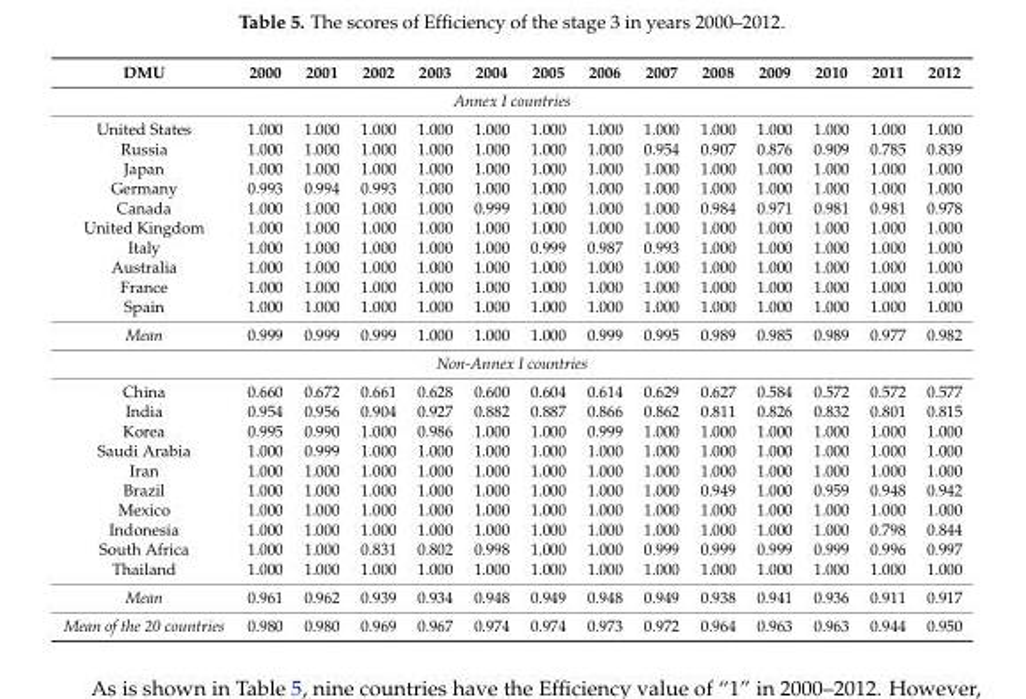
<table><thead><tr><td>DMU</td><td>2000</td><td>2001</td><td>2002</td><td>2003</td><td>2004</td><td>2005</td><td>2006</td><td>2007</td><td>2008</td><td>2009</td><td>2010</td><td>2011</td><td>2012</td></tr></thead><tbody><tr><td colspan="14">Annex I countries</td></tr><tr><td>United States</td><td>1.000</td><td>1.000</td><td>1.000</td><td>1.000</td><td>1.000</td><td>1.000</td><td>1.000</td><td>1.000</td><td>1.000</td><td>1.000</td><td>1.000</td><td>1.000</td><td>1.000</td></tr><tr><td>Russia</td><td>1.000</td><td>1.000</td><td>1.000</td><td>1.000</td><td>1.000</td><td>1.000</td><td>1.000</td><td>0.954</td><td>0.907</td><td>0.876</td><td>0.909</td><td>0.785</td><td>0.839</td></tr><tr><td>Japan</td><td>1.000</td><td>1.000</td><td>1.000</td><td>1.000</td><td>1.000</td><td>1.000</td><td>1.000</td><td>1.000</td><td>1.000</td><td>1.000</td><td>1.000</td><td>1.000</td><td>1.000</td></tr><tr><td>Germany</td><td>0.993</td><td>0.994</td><td>0.993</td><td>1.000</td><td>1.000</td><td>1.000</td><td>1.000</td><td>1.000</td><td>1.000</td><td>1.000</td><td>1.000</td><td>1.000</td><td>1.000</td></tr><tr><td>Canada</td><td>1.000</td><td>1.000</td><td>1.000</td><td>1.000</td><td>0.999</td><td>1.000</td><td>1.000</td><td>1.000</td><td>0.984</td><td>0.971</td><td>0.981</td><td>0.981</td><td>0.978</td></tr><tr><td>United Kingdom</td><td>1.000</td><td>1.000</td><td>1.000</td><td>1.000</td><td>1.000</td><td>1.000</td><td>1.000</td><td>1.000</td><td>1.000</td><td>1.000</td><td>1.000</td><td>1.000</td><td>1.000</td></tr><tr><td>Italy</td><td>1.000</td><td>1.000</td><td>1.000</td><td>1.000</td><td>1.000</td><td>0.999</td><td>0.987</td><td>0.993</td><td>1.000</td><td>1.000</td><td>1.000</td><td>1.000</td><td>1.000</td></tr><tr><td>Australia</td><td>1.000</td><td>1.000</td><td>1.000</td><td>1.000</td><td>1.000</td><td>1.000</td><td>1.000</td><td>1.000</td><td>1.000</td><td>1.000</td><td>1.000</td><td>1.000</td><td>1.000</td></tr><tr><td>France</td><td>1.000</td><td>1.000</td><td>1.000</td><td>1.000</td><td>1.000</td><td>1.000</td><td>1.000</td><td>1.000</td><td>1.000</td><td>1.000</td><td>1.000</td><td>1.000</td><td>1.000</td></tr><tr><td>Spain</td><td>1.000</td><td>1.000</td><td>1.000</td><td>1.000</td><td>1.000</td><td>1.000</td><td>1.000</td><td>1.000</td><td>1.000</td><td>1.000</td><td>1.000</td><td>1.000</td><td>1.000</td></tr><tr><td>Mean</td><td>0.999</td><td>0.999</td><td>0.999</td><td>1.000</td><td>1.000</td><td>1.000</td><td>0.999</td><td>0.995</td><td>0.989</td><td>0.985</td><td>0.989</td><td>0.977</td><td>0.982</td></tr><tr><td colspan="14">Non-Annex I countries</td></tr><tr><td>China</td><td>0.660</td><td>0.672</td><td>0.661</td><td>0.628</td><td>0.600</td><td>0.604</td><td>0.614</td><td>0.629</td><td>0.627</td><td>0.584</td><td>0.572</td><td>0.572</td><td>0.577</td></tr><tr><td>India</td><td>0.954</td><td>0.956</td><td>0.904</td><td>0.927</td><td>0.882</td><td>0.887</td><td>0.866</td><td>0.862</td><td>0.811</td><td>0.826</td><td>0.832</td><td>0.801</td><td>0.815</td></tr><tr><td>Korea</td><td>0.995</td><td>0.990</td><td>1.000</td><td>0.986</td><td>1.000</td><td>1.000</td><td>0.999</td><td>1.000</td><td>1.000</td><td>1.000</td><td>1.000</td><td>1.000</td><td>1.000</td></tr><tr><td>Saudi Arabia</td><td>1.000</td><td>0.999</td><td>1.000</td><td>1.000</td><td>1.000</td><td>1.000</td><td>1.000</td><td>1.000</td><td>1.000</td><td>1.000</td><td>1.000</td><td>1.000</td><td>1.000</td></tr><tr><td>Iran</td><td>1.000</td><td>1.000</td><td>1.000</td><td>1.000</td><td>1.000</td><td>1.000</td><td>1.000</td><td>1.000</td><td>1.000</td><td>1.000</td><td>1.000</td><td>1.000</td><td>1.000</td></tr><tr><td>Brazil</td><td>1.000</td><td>1.000</td><td>1.000</td><td>1.000</td><td>1.000</td><td>1.000</td><td>1.000</td><td>1.000</td><td>0.949</td><td>1.000</td><td>0.959</td><td>0.948</td><td>0.942</td></tr><tr><td>Mexico</td><td>1.000</td><td>1.000</td><td>1.000</td><td>1.000</td><td>1.000</td><td>1.000</td><td>1.000</td><td>1.000</td><td>1.000</td><td>1.000</td><td>1.000</td><td>1.000</td><td>1.000</td></tr><tr><td>Indonesia</td><td>1.000</td><td>1.000</td><td>1.000</td><td>1.000</td><td>1.000</td><td>1.000</td><td>1.000</td><td>1.000</td><td>1.000</td><td>1.000</td><td>1.000</td><td>0.798</td><td>0.844</td></tr><tr><td>South Africa</td><td>1.000</td><td>1.000</td><td>0.831</td><td>0.802</td><td>0.998</td><td>1.000</td><td>1.000</td><td>0.999</td><td>0.999</td><td>0.999</td><td>0.999</td><td>0.996</td><td>0.997</td></tr><tr><td>Thailand</td><td>1.000</td><td>1.000</td><td>1.000</td><td>1.000</td><td>1.000</td><td>1.000</td><td>1.000</td><td>1.000</td><td>1.000</td><td>1.000</td><td>1.000</td><td>1.000</td><td>1.000</td></tr><tr><td>Mean</td><td>0.961</td><td>0.962</td><td>0.939</td><td>0.934</td><td>0.948</td><td>0.949</td><td>0.948</td><td>0.949</td><td>0.938</td><td>0.941</td><td>0.936</td><td>0.911</td><td>0.917</td></tr><tr><td>Mean of the 20 countries</td><td>0.980</td><td>0.980</td><td>0.969</td><td>0.967</td><td>0.974</td><td>0.974</td><td>0.973</td><td>0.972</td><td>0.964</td><td>0.963</td><td>0.963</td><td>0.944</td><td>0.950</td></tr></tbody></table>